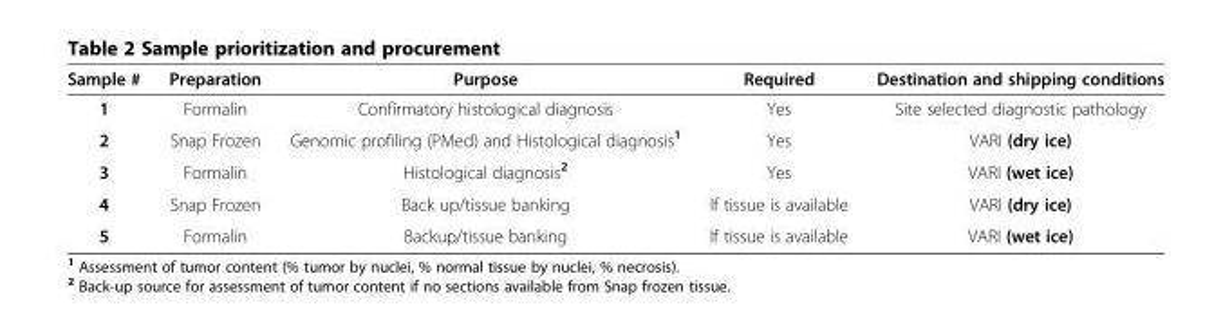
<table><thead><tr><td>Sample #</td><td>Preparation</td><td>Purpose</td><td>Required</td><td>Destination and shipping conditions</td></tr></thead><tbody><tr><td>1</td><td>Formalin</td><td>Confirmatory histological diagnosis</td><td>Yes</td><td>Site selected diagnostic pathology</td></tr><tr><td>2</td><td>Snap Frozen</td><td>Genomic profiling (PMed) and Histological diagnosis<sup>1</sup></td><td>Yes</td><td>VARI (dry ice)</td></tr><tr><td>3</td><td>Formalin</td><td>Histological diagnosis<sup>2</sup></td><td>Yes</td><td>VARI (wet ice)</td></tr><tr><td>4</td><td>Snap Frozen</td><td>Back up/tissue banking</td><td>If tissue is available</td><td>VARI (dry ice)</td></tr><tr><td>5</td><td>Formalin</td><td>Backup/tissue banking</td><td>If tissue is available</td><td>VARI (wet ice)</td></tr></tbody></table>